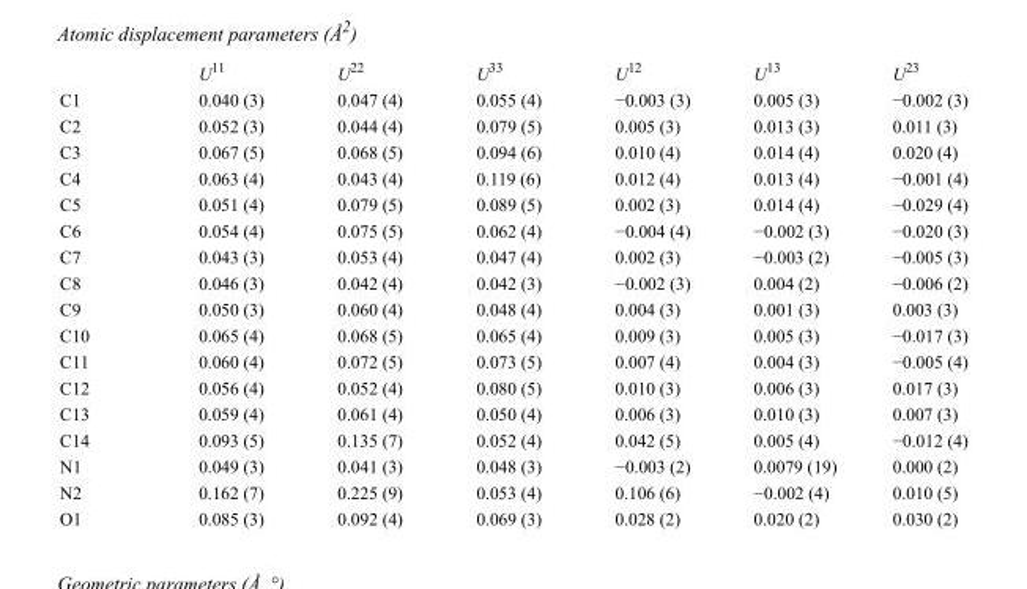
<table><thead><tr><td></td><td>U<sup>11</sup></td><td>U<sup>22</sup></td><td>U<sup>33</sup></td><td>U<sup>12</sup></td><td>U<sup>13</sup></td><td>U<sup>23</sup></td></tr></thead><tbody><tr><td>C1</td><td>0.040 (3)</td><td>0.047 (4)</td><td>0.055 (4)</td><td>−0.003 (3)</td><td>0.005 (3)</td><td>−0.002 (3)</td></tr><tr><td>C2</td><td>0.052 (3)</td><td>0.044 (4)</td><td>0.079 (5)</td><td>0.005 (3)</td><td>0.013 (3)</td><td>0.011 (3)</td></tr><tr><td>C3</td><td>0.067 (5)</td><td>0.068 (5)</td><td>0.094 (6)</td><td>0.010 (4)</td><td>0.014 (4)</td><td>0.020 (4)</td></tr><tr><td>C4</td><td>0.063 (4)</td><td>0.043 (4)</td><td>0.119 (6)</td><td>0.012 (4)</td><td>0.013 (4)</td><td>−0.001 (4)</td></tr><tr><td>C5</td><td>0.051 (4)</td><td>0.079 (5)</td><td>0.089 (5)</td><td>0.002 (3)</td><td>0.014 (4)</td><td>−0.029 (4)</td></tr><tr><td>C6</td><td>0.054 (4)</td><td>0.075 (5)</td><td>0.062 (4)</td><td>−0.004 (4)</td><td>−0.002 (3)</td><td>−0.020 (3)</td></tr><tr><td>C7</td><td>0.043 (3)</td><td>0.053 (4)</td><td>0.047 (4)</td><td>0.002 (3)</td><td>−0.003 (2)</td><td>−0.005 (3)</td></tr><tr><td>C8</td><td>0.046 (3)</td><td>0.042 (4)</td><td>0.042 (3)</td><td>−0.002 (3)</td><td>0.004 (2)</td><td>−0.006 (2)</td></tr><tr><td>C9</td><td>0.050 (3)</td><td>0.060 (4)</td><td>0.048 (4)</td><td>0.004 (3)</td><td>0.001 (3)</td><td>0.003 (3)</td></tr><tr><td>C10</td><td>0.065 (4)</td><td>0.068 (5)</td><td>0.065 (4)</td><td>0.009 (3)</td><td>0.005 (3)</td><td>−0.017 (3)</td></tr><tr><td>C11</td><td>0.060 (4)</td><td>0.072 (5)</td><td>0.073 (5)</td><td>0.007 (4)</td><td>0.004 (3)</td><td>−0.005 (4)</td></tr><tr><td>C12</td><td>0.056 (4)</td><td>0.052 (4)</td><td>0.080 (5)</td><td>0.010 (3)</td><td>0.006 (3)</td><td>0.017 (3)</td></tr><tr><td>C13</td><td>0.059 (4)</td><td>0.061 (4)</td><td>0.050 (4)</td><td>0.006 (3)</td><td>0.010 (3)</td><td>0.007 (3)</td></tr><tr><td>C14</td><td>0.093 (5)</td><td>0.135 (7)</td><td>0.052 (4)</td><td>0.042 (5)</td><td>0.005 (4)</td><td>−0.012 (4)</td></tr><tr><td>N1</td><td>0.049 (3)</td><td>0.041 (3)</td><td>0.048 (3)</td><td>−0.003 (2)</td><td>0.0079 (19)</td><td>0.000 (2)</td></tr><tr><td>N2</td><td>0.162 (7)</td><td>0.225 (9)</td><td>0.053 (4)</td><td>0.106 (6)</td><td>−0.002 (4)</td><td>0.010 (5)</td></tr><tr><td>O1</td><td>0.085 (3)</td><td>0.092 (4)</td><td>0.069 (3)</td><td>0.028 (2)</td><td>0.020 (2)</td><td>0.030 (2)</td></tr></tbody></table>